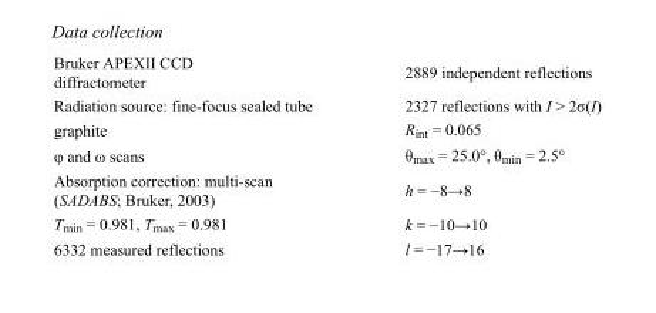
<table><tbody><tr><td>Bruker APEXII CCD diffractometer</td><td>2889 independent reflections</td></tr><tr><td>Radiation source: fine-focus sealed tube</td><td>2327 reflections with I &gt; 2σ(I)</td></tr><tr><td>graphite</td><td>R<sub>int</sub> = 0.065</td></tr><tr><td>φ and ω scans</td><td>θ<sub>max</sub> = 25.0°, θ<sub>min</sub> = 2.5°</td></tr><tr><td>Absorption correction: multi-scan (SADABS; Bruker, 2003)</td><td>h = −8→8</td></tr><tr><td>T<sub>min</sub> = 0.981, T<sub>max</sub> = 0.981</td><td>k = −10→10</td></tr><tr><td>6332 measured reflections</td><td>l = −17→16</td></tr></tbody></table>